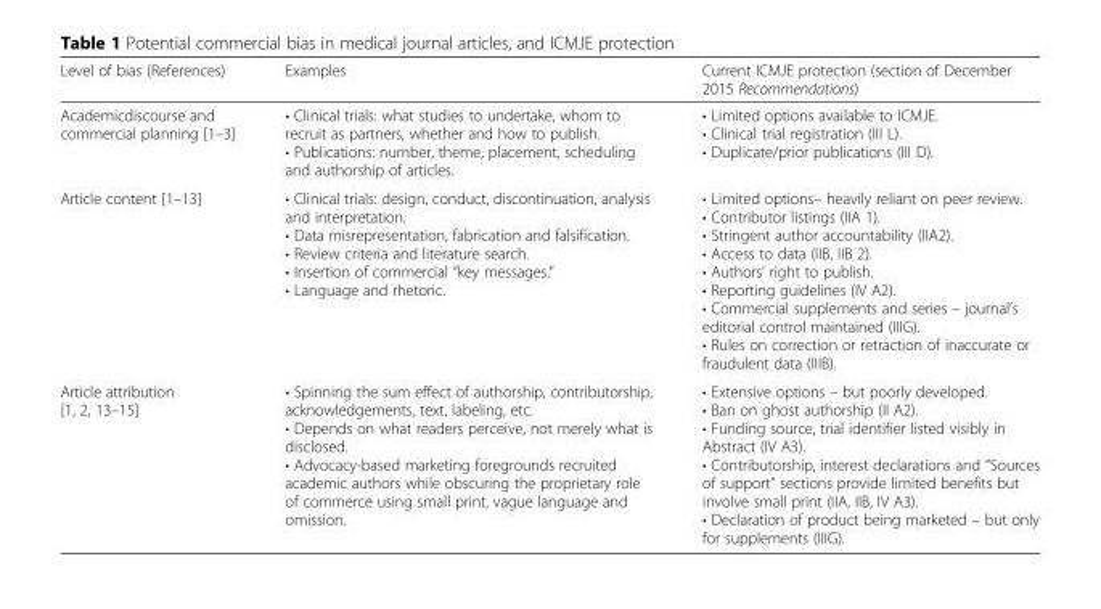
<table><thead><tr><td>Level of bias (References)</td><td>Examples</td><td>Current ICMJE protection (section of December 2015 Recommendations)</td></tr></thead><tbody><tr><td>Academicdiscourse and commercial planning [1–3]</td><td>• Clinical trials: what studies to undertake, whom to recruit as partners, whether and how to publish. • Publications: number, theme, placement, scheduling and authorship of articles.</td><td>• Limited options available to ICMJE. • Clinical trial registration (III L). • Duplicate/prior publications (III D).</td></tr><tr><td>Article content [1–13]</td><td>• Clinical trials: design, conduct, discontinuation, analysis and interpretation. • Data misrepresentation, fabrication and falsification. • Review criteria and literature search. • Insertion of commercial “key messages.” • Language and rhetoric.</td><td>• Limited options– heavily reliant on peer review. • Contributor listings (IIA 1). • Stringent author accountability (IIA2). • Access to data (IIB, IIB 2). • Authors’ right to publish. • Reporting guidelines (IV A2). • Commercial supplements and series – journal’s editorial control maintained (IIIG). • Rules on correction or retraction of inaccurate or fraudulent data (IIIB).</td></tr><tr><td>Article attribution [1, 2, 13–15]</td><td>• Spinning the sum effect of authorship, contributorship, acknowledgements, text, labeling, etc. • Depends on what readers perceive, not merely what is disclosed. • Advocacy-based marketing foregrounds recruited academic authors while obscuring the proprietary role of commerce using small print, vague language and omission.</td><td>• Extensive options – but poorly developed. • Ban on ghost authorship (II A2). • Funding source, trial identifier listed visibly in Abstract (IV A3). • Contributorship, interest declarations and “Sources of support” sections provide limited benefits but involve small print (IIA, IIB, IV A3). • Declaration of product being marketed – but only for supplements (IIIG).</td></tr></tbody></table>